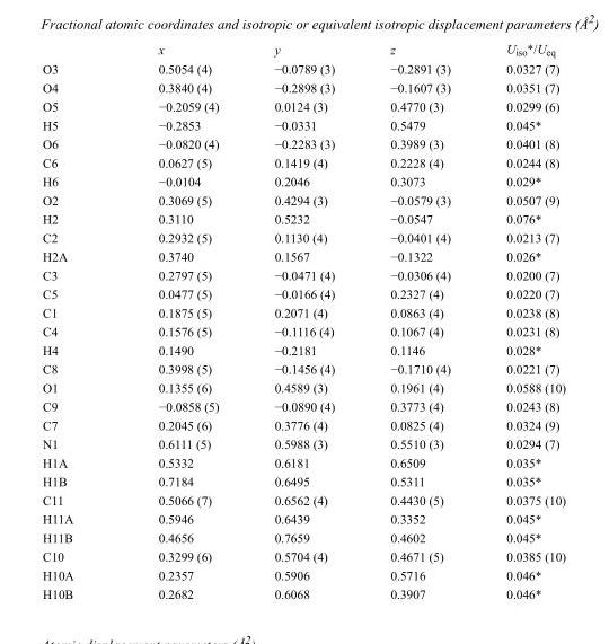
<table><thead><tr><td></td><td>x</td><td>y</td><td>z</td><td>U<sub>iso</sub>*/U<sub>eq</sub></td></tr></thead><tbody><tr><td>O3</td><td>0.5054 (4)</td><td>−0.0789 (3)</td><td>−0.2891 (3)</td><td>0.0327 (7)</td></tr><tr><td>O4</td><td>0.3840 (4)</td><td>−0.2898 (3)</td><td>−0.1607 (3)</td><td>0.0351 (7)</td></tr><tr><td>O5</td><td>−0.2059 (4)</td><td>0.0124 (3)</td><td>0.4770 (3)</td><td>0.0299 (6)</td></tr><tr><td>H5</td><td>−0.2853</td><td>−0.0331</td><td>0.5479</td><td>0.045*</td></tr><tr><td>O6</td><td>−0.0820 (4)</td><td>−0.2283 (3)</td><td>0.3989 (3)</td><td>0.0401 (8)</td></tr><tr><td>C6</td><td>0.0627 (5)</td><td>0.1419 (4)</td><td>0.2228 (4)</td><td>0.0244 (8)</td></tr><tr><td>H6</td><td>−0.0104</td><td>0.2046</td><td>0.3073</td><td>0.029*</td></tr><tr><td>O2</td><td>0.3069 (5)</td><td>0.4294 (3)</td><td>−0.0579 (3)</td><td>0.0507 (9)</td></tr><tr><td>H2</td><td>0.3110</td><td>0.5232</td><td>−0.0547</td><td>0.076*</td></tr><tr><td>C2</td><td>0.2932 (5)</td><td>0.1130 (4)</td><td>−0.0401 (4)</td><td>0.0213 (7)</td></tr><tr><td>H2A</td><td>0.3740</td><td>0.1567</td><td>−0.1322</td><td>0.026*</td></tr><tr><td>C3</td><td>0.2797 (5)</td><td>−0.0471 (4)</td><td>−0.0306 (4)</td><td>0.0200 (7)</td></tr><tr><td>C5</td><td>0.0477 (5)</td><td>−0.0166 (4)</td><td>0.2327 (4)</td><td>0.0220 (7)</td></tr><tr><td>C1</td><td>0.1875 (5)</td><td>0.2071 (4)</td><td>0.0863 (4)</td><td>0.0238 (8)</td></tr><tr><td>C4</td><td>0.1576 (5)</td><td>−0.1116 (4)</td><td>0.1067 (4)</td><td>0.0231 (8)</td></tr><tr><td>H4</td><td>0.1490</td><td>−0.2181</td><td>0.1146</td><td>0.028*</td></tr><tr><td>C8</td><td>0.3998 (5)</td><td>−0.1456 (4)</td><td>−0.1710 (4)</td><td>0.0221 (7)</td></tr><tr><td>O1</td><td>0.1355 (6)</td><td>0.4589 (3)</td><td>0.1961 (4)</td><td>0.0588 (10)</td></tr><tr><td>C9</td><td>−0.0858 (5)</td><td>−0.0890 (4)</td><td>0.3773 (4)</td><td>0.0243 (8)</td></tr><tr><td>C7</td><td>0.2045 (6)</td><td>0.3776 (4)</td><td>0.0825 (4)</td><td>0.0324 (9)</td></tr><tr><td>N1</td><td>0.6111 (5)</td><td>0.5988 (3)</td><td>0.5510 (3)</td><td>0.0294 (7)</td></tr><tr><td>H1A</td><td>0.5332</td><td>0.6181</td><td>0.6509</td><td>0.035*</td></tr><tr><td>H1B</td><td>0.7184</td><td>0.6495</td><td>0.5311</td><td>0.035*</td></tr><tr><td>C11</td><td>0.5066 (7)</td><td>0.6562 (4)</td><td>0.4430 (5)</td><td>0.0375 (10)</td></tr><tr><td>H11A</td><td>0.5946</td><td>0.6439</td><td>0.3352</td><td>0.045*</td></tr><tr><td>H11B</td><td>0.4656</td><td>0.7659</td><td>0.4602</td><td>0.045*</td></tr><tr><td>C10</td><td>0.3299 (6)</td><td>0.5704 (4)</td><td>0.4671 (5)</td><td>0.0385 (10)</td></tr><tr><td>H10A</td><td>0.2357</td><td>0.5906</td><td>0.5716</td><td>0.046*</td></tr><tr><td>H10B</td><td>0.2682</td><td>0.6068</td><td>0.3907</td><td>0.046*</td></tr></tbody></table>